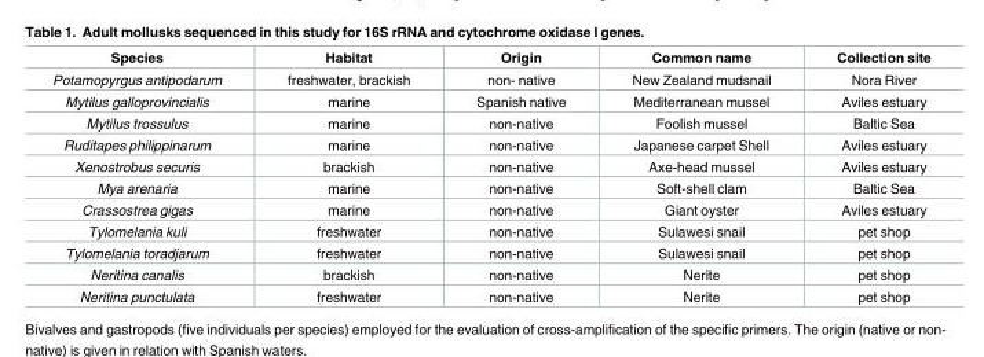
<table><thead><tr><td>Species</td><td>Habitat</td><td>Origin</td><td>Common name</td><td>Collection site</td></tr></thead><tbody><tr><td>Potamopyrgus antipodarum</td><td>freshwater, brackish</td><td>non- native</td><td>New Zealand mudsnail</td><td>Nora River</td></tr><tr><td>Mytilus galloprovincialis</td><td>marine</td><td>Spanish native</td><td>Mediterranean mussel</td><td>Aviles estuary</td></tr><tr><td>Mytilus trossulus</td><td>marine</td><td>non-native</td><td>Foolish mussel</td><td>Baltic Sea</td></tr><tr><td>Ruditapes philippinarum</td><td>marine</td><td>non-native</td><td>Japanese carpet Shell</td><td>Aviles estuary</td></tr><tr><td>Xenostrobus securis</td><td>brackish</td><td>non-native</td><td>Axe-head mussel</td><td>Aviles estuary</td></tr><tr><td>Mya arenaria</td><td>marine</td><td>non-native</td><td>Soft-shell clam</td><td>Baltic Sea</td></tr><tr><td>Crassostrea gigas</td><td>marine</td><td>non-native</td><td>Giant oyster</td><td>Aviles estuary</td></tr><tr><td>Tylomelania kuli</td><td>freshwater</td><td>non-native</td><td>Sulawesi snail</td><td>pet shop</td></tr><tr><td>Tylomelania toradjarum</td><td>freshwater</td><td>non-native</td><td>Sulawesi snail</td><td>pet shop</td></tr><tr><td>Neritina canalis</td><td>brackish</td><td>non-native</td><td>Nerite</td><td>pet shop</td></tr><tr><td>Neritina punctulata</td><td>freshwater</td><td>non-native</td><td>Nerite</td><td>pet shop</td></tr></tbody></table>